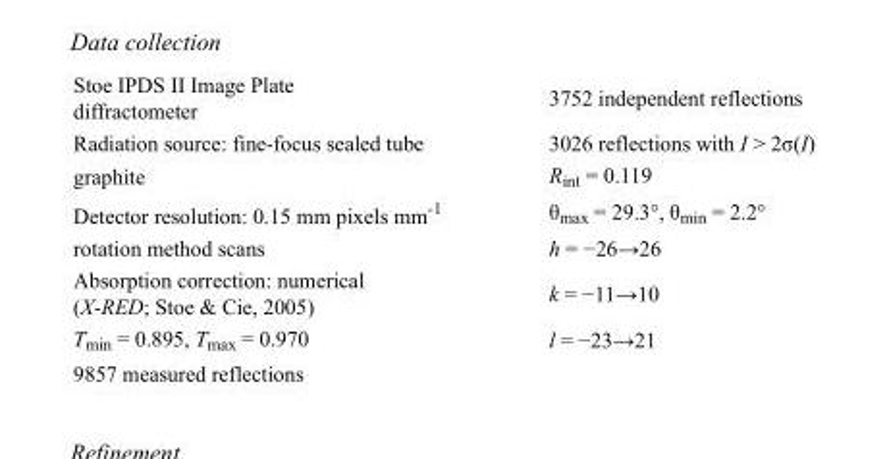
<table><tbody><tr><td>Stoe IPDS II Image Plate diffractometer</td><td>3752 independent reflections</td></tr><tr><td>Radiation source: fine-focus sealed tube</td><td>3026 reflections with I &gt; 2σ(I)</td></tr><tr><td>graphite</td><td>R<sub>int</sub> = 0.119</td></tr><tr><td>Detector resolution: 0.15 mm pixels mm<sup>-1</sup></td><td>θ<sub>max</sub> = 29.3°, θ<sub>min</sub> = 2.2°</td></tr><tr><td>rotation method scans</td><td>h = −26→26</td></tr><tr><td>Absorption correction: numerical (X-RED; Stoe &amp; Cie, 2005)</td><td>k = −11→10</td></tr><tr><td>T<sub>min</sub> = 0.895, T<sub>max</sub> = 0.970</td><td>l = −23→21</td></tr><tr><td>9857 measured reflections</td><td></td></tr></tbody></table>